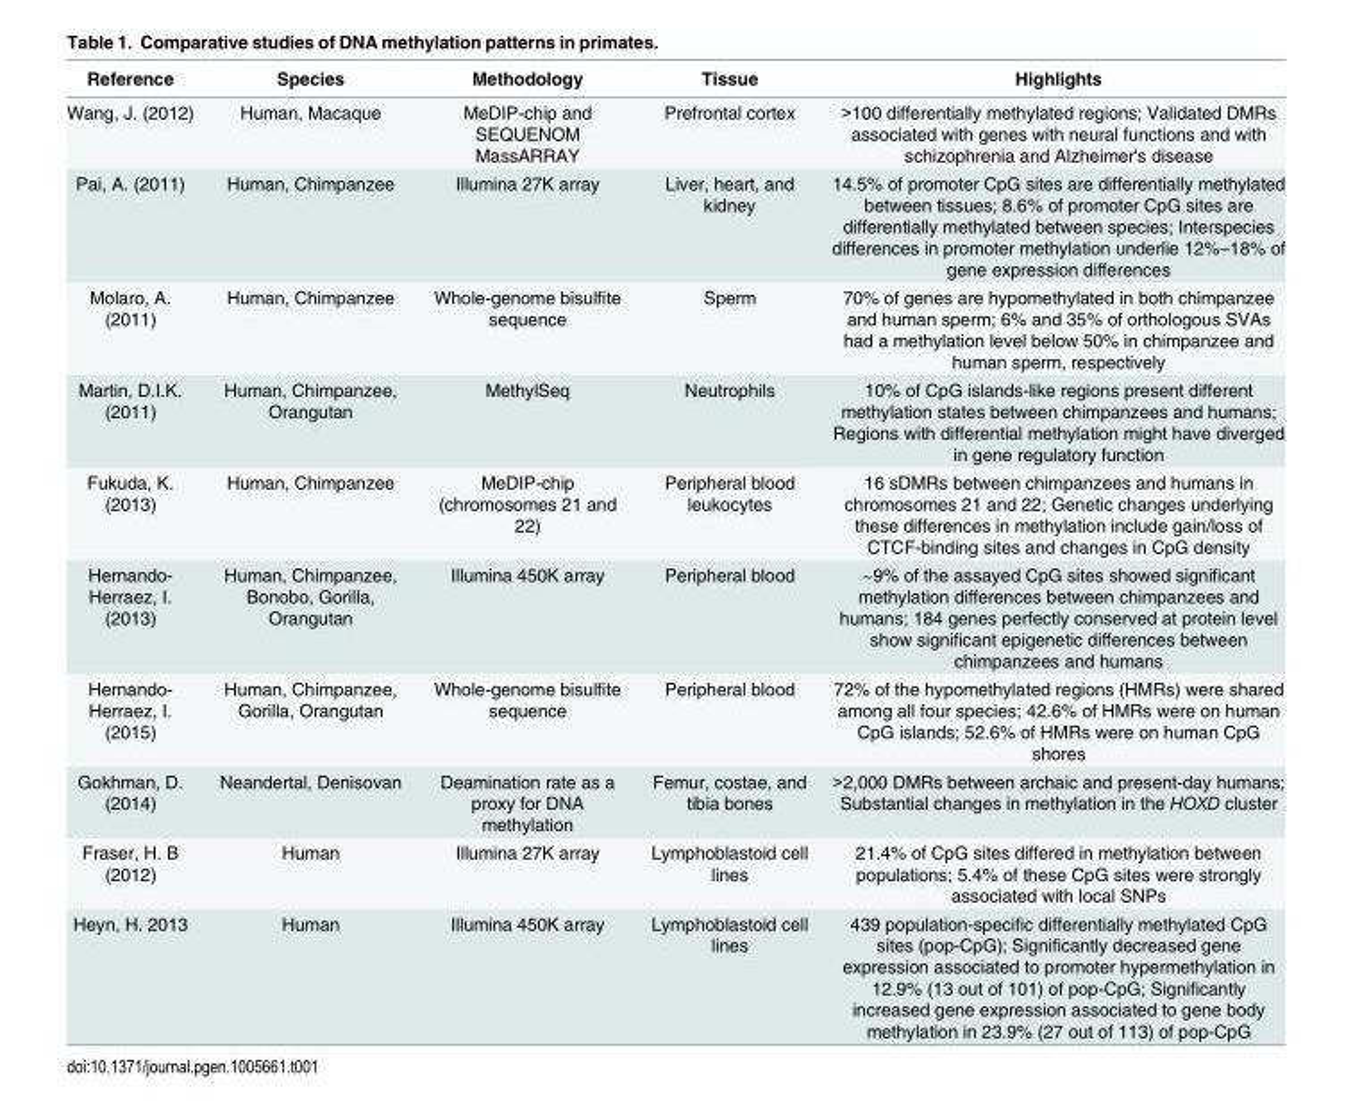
<table><thead><tr><td>Reference</td><td>Species</td><td>Methodology</td><td>Tissue</td><td>Highlights</td></tr></thead><tbody><tr><td>Wang, J. (2012)</td><td>Human, Macaque</td><td>MeDIP-chip and SEQUENOM MassARRAY</td><td>Prefrontal cortex</td><td>&gt;100 differentially methylated regions; Validated DMRs associated with genes with neural functions and with schizophrenia and Alzheimer&#x27;s disease</td></tr><tr><td>Pai, A. (2011)</td><td>Human, Chimpanzee</td><td>Illumina 27K array</td><td>Liver, heart, and kidney</td><td>14.5% of promoter CpG sites are differentially methylated between tissues; 8.6% of promoter CpG sites are differentially methylated between species; Interspecies differences in promoter methylation underlie 12%–18% of gene expression differences</td></tr><tr><td>Molaro, A. (2011)</td><td>Human, Chimpanzee</td><td>Whole-genome bisulfite sequence</td><td>Sperm</td><td>70% of genes are hypomethylated in both chimpanzee and human sperm; 6% and 35% of orthologous SVAs had a methylation level below 50% in chimpanzee and human sperm, respectively</td></tr><tr><td>Martin, D.I.K. (2011)</td><td>Human, Chimpanzee, Orangutan</td><td>MethylSeq</td><td>Neutrophils</td><td>10% of CpG islands-like regions present different methylation states between chimpanzees and humans; Regions with differential methylation might have diverged in gene regulatory function</td></tr><tr><td>Fukuda, K. (2013)</td><td>Human, Chimpanzee</td><td>MeDIP-chip (chromosomes 21 and 22)</td><td>Peripheral blood leukocytes</td><td>16 sDMRs between chimpanzees and humans in chromosomes 21 and 22; Genetic changes underlying these differences in methylation include gain/loss of CTCF-binding sites and changes in CpG density</td></tr><tr><td>Hernando- Herraez, I. (2013)</td><td>Human, Chimpanzee, Bonobo, Gorilla, Orangutan</td><td>Illumina 450K array</td><td>Peripheral blood</td><td>~9% of the assayed CpG sites showed significant methylation differences between chimpanzees and humans; 184 genes perfectly conserved at protein level show significant epigenetic differences between chimpanzees and humans</td></tr><tr><td>Hernando- Herraez, I. (2015)</td><td>Human, Chimpanzee, Gorilla, Orangutan</td><td>Whole-genome bisulfite sequence</td><td>Peripheral blood</td><td>72% of the hypomethylated regions (HMRs) were shared among all four species; 42.6% of HMRs were on human CpG islands; 52.6% of HMRs were on human CpG shores</td></tr><tr><td>Gokhman, D. (2014)</td><td>Neandertal, Denisovan</td><td>Deamination rate as a proxy for DNA methylation</td><td>Femur, costae, and tibia bones</td><td>&gt;2,000 DMRs between archaic and present-day humans; Substantial changes in methylation in the HOXD cluster</td></tr><tr><td>Fraser, H. B (2012)</td><td>Human</td><td>Illumina 27K array</td><td>Lymphoblastoid cell lines</td><td>21.4% of CpG sites differed in methylation between populations; 5.4% of these CpG sites were strongly associated with local SNPs</td></tr><tr><td>Heyn, H. 2013</td><td>Human</td><td>Illumina 450K array</td><td>Lymphoblastoid cell lines</td><td>439 population-specific differentially methylated CpG sites (pop-CpG); Significantly decreased gene expression associated to promoter hypermethylation in 12.9% (13 out of 101) of pop-CpG; Significantly increased gene expression associated to gene body methylation in 23.9% (27 out of 113) of pop-CpG</td></tr></tbody></table>